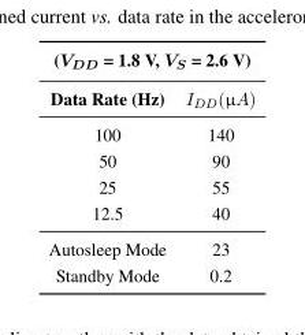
<table><thead><tr><td colspan="2">(V<sub>DD</sub> = 1.8 V, V<sub>S</sub> = 2.6 V)</td></tr><tr><td>Data Rate (Hz)</td><td>I<sub>DD</sub>(µA)</td></tr></thead><tbody><tr><td>100</td><td>140</td></tr><tr><td>50</td><td>90</td></tr><tr><td>25</td><td>55</td></tr><tr><td>12.5</td><td>40</td></tr><tr><td>Autosleep Mode</td><td>23</td></tr><tr><td>Standby Mode</td><td>0.2</td></tr></tbody></table>